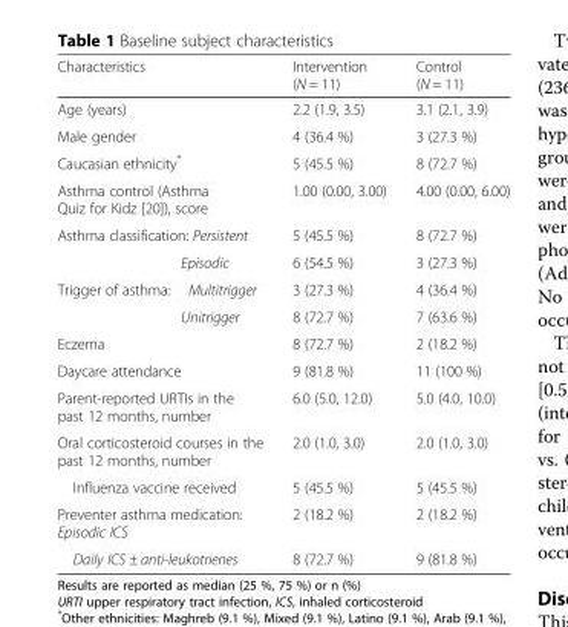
<table><thead><tr><td>Characteristics</td><td>Intervention (N = 11)</td><td>Control (N = 11)</td></tr></thead><tbody><tr><td>Age (years)</td><td>2.2 (1.9, 3.5)</td><td>3.1 (2.1, 3.9)</td></tr><tr><td>Male gender</td><td>4 (36.4 %)</td><td>3 (27.3 %)</td></tr><tr><td>Caucasian ethnicity*</td><td>5 (45.5 %)</td><td>8 (72.7 %)</td></tr><tr><td>Asthma control (Asthma Quiz for Kidz [20]), score</td><td>1.00 (0.00, 3.00)</td><td>4.00 (0.00, 6.00)</td></tr><tr><td>Asthma classification: Persistent</td><td>5 (45.5 %)</td><td>8 (72.7 %)</td></tr><tr><td>Episodic</td><td>6 (54.5 %)</td><td>3 (27.3 %)</td></tr><tr><td>Trigger of asthma: Multitrigger</td><td>3 (27.3 %)</td><td>4 (36.4 %)</td></tr><tr><td>Unitrigger</td><td>8 (72.7 %)</td><td>7 (63.6 %)</td></tr><tr><td>Eczema</td><td>8 (72.7 %)</td><td>2 (18.2 %)</td></tr><tr><td>Daycare attendance</td><td>9 (81.8 %)</td><td>11 (100 %)</td></tr><tr><td>Parent-reported URTIs in the past 12 months, number</td><td>6.0 (5.0, 12.0)</td><td>5.0 (4.0, 10.0)</td></tr><tr><td>Oral corticosteroid courses in the past 12 months, number</td><td>2.0 (1.0, 3.0)</td><td>2.0 (1.0, 3.0)</td></tr><tr><td>Influenza vaccine received</td><td>5 (45.5 %)</td><td>5 (45.5 %)</td></tr><tr><td>Preventer asthma medication: Episodic ICS</td><td>2 (18.2 %)</td><td>2 (18.2 %)</td></tr><tr><td>Daily ICS ± anti-leukotrienes</td><td>8 (72.7 %)</td><td>9 (81.8 %)</td></tr></tbody></table>